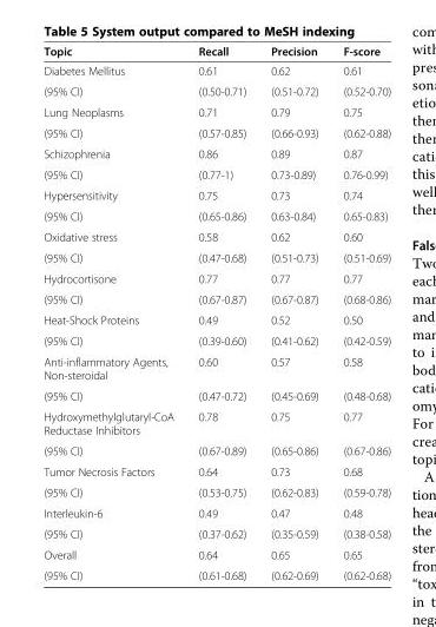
<table><thead><tr><td>Topic</td><td>Recall</td><td>Precision</td><td>F-score</td></tr></thead><tbody><tr><td>Diabetes Mellitus</td><td>0.61</td><td>0.62</td><td>0.61</td></tr><tr><td>(95% CI)</td><td>(0.50-0.71)</td><td>(0.51-0.72)</td><td>(0.52-0.70)</td></tr><tr><td>Lung Neoplasms</td><td>0.71</td><td>0.79</td><td>0.75</td></tr><tr><td>(95% CI)</td><td>(0.57-0.85)</td><td>(0.66-0.93)</td><td>(0.62-0.88)</td></tr><tr><td>Schizophrenia</td><td>0.86</td><td>0.89</td><td>0.87</td></tr><tr><td>(95% CI)</td><td>(0.77-1)</td><td>0.73-0.89)</td><td>0.76-0.99)</td></tr><tr><td>Hypersensitivity</td><td>0.75</td><td>0.73</td><td>0.74</td></tr><tr><td>(95% CI)</td><td>(0.65-0.86)</td><td>0.63-0.84)</td><td>0.65-0.83)</td></tr><tr><td>Oxidative stress</td><td>0.58</td><td>0.62</td><td>0.60</td></tr><tr><td>(95% CI)</td><td>(0.47-0.68)</td><td>(0.51-0.73)</td><td>(0.51-0.69)</td></tr><tr><td>Hydrocortisone</td><td>0.77</td><td>0.77</td><td>0.77</td></tr><tr><td>(95% CI)</td><td>(0.67-0.87)</td><td>(0.67-0.87)</td><td>(0.68-0.86)</td></tr><tr><td>Heat-Shock Proteins</td><td>0.49</td><td>0.52</td><td>0.50</td></tr><tr><td>(95% CI)</td><td>(0.39-0.60)</td><td>(0.41-0.62)</td><td>(0.42-0.59)</td></tr><tr><td>Anti-inflammatory Agents, Non-steroidal</td><td>0.60</td><td>0.57</td><td>0.58</td></tr><tr><td>(95% CI)</td><td>(0.47-0.72)</td><td>(0.45-0.69)</td><td>(0.48-0.68)</td></tr><tr><td>Hydroxymethylglutaryl-CoA Reductase Inhibitors</td><td>0.78</td><td>0.75</td><td>0.77</td></tr><tr><td>(95% CI)</td><td>(0.67-0.89)</td><td>(0.65-0.86)</td><td>(0.67-0.86)</td></tr><tr><td>Tumor Necrosis Factors</td><td>0.64</td><td>0.73</td><td>0.68</td></tr><tr><td>(95% CI)</td><td>(0.53-0.75)</td><td>(0.62-0.83)</td><td>(0.59-0.78)</td></tr><tr><td>Interleukin-6</td><td>0.49</td><td>0.47</td><td>0.48</td></tr><tr><td>(95% CI)</td><td>(0.37-0.62)</td><td>(0.35-0.59)</td><td>(0.38-0.58)</td></tr><tr><td>Overall</td><td>0.64</td><td>0.65</td><td>0.65</td></tr><tr><td>(95% CI)</td><td>(0.61-0.68)</td><td>(0.62-0.69)</td><td>(0.62-0.68)</td></tr></tbody></table>